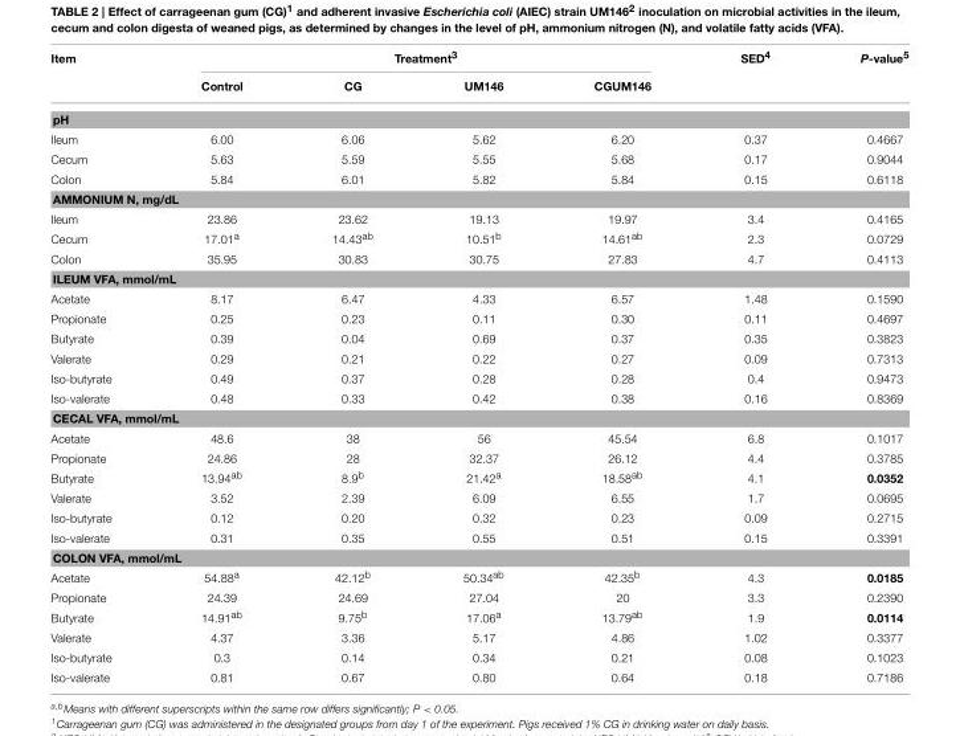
<table><thead><tr><td rowspan="2">Item</td><td colspan="4">Treatment<sup>3</sup></td><td rowspan="2">SED<sup>4</sup></td><td rowspan="2">P-value<sup>5</sup></td></tr><tr><td>Control</td><td>CG</td><td>UM146</td><td>CGUM146</td></tr></thead><tbody><tr><td colspan="7">pH</td></tr><tr><td>Ileum</td><td>6.00</td><td>6.06</td><td>5.62</td><td>6.20</td><td>0.37</td><td>0.4667</td></tr><tr><td>Cecum</td><td>5.63</td><td>5.59</td><td>5.55</td><td>5.68</td><td>0.17</td><td>0.9044</td></tr><tr><td>Colon</td><td>5.84</td><td>6.01</td><td>5.82</td><td>5.84</td><td>0.15</td><td>0.6118</td></tr><tr><td colspan="7">AMMONIUM N, mg/dL</td></tr><tr><td>Ileum</td><td>23.86</td><td>23.62</td><td>19.13</td><td>19.97</td><td>3.4</td><td>0.4165</td></tr><tr><td>Cecum</td><td>17.01<sup>a</sup></td><td>14.43<sup>ab</sup></td><td>10.51<sup>b</sup></td><td>14.61<sup>ab</sup></td><td>2.3</td><td>0.0729</td></tr><tr><td>Colon</td><td>35.95</td><td>30.83</td><td>30.75</td><td>27.83</td><td>4.7</td><td>0.4113</td></tr><tr><td colspan="7">ILEUM VFA, mmol/mL</td></tr><tr><td>Acetate</td><td>8.17</td><td>6.47</td><td>4.33</td><td>6.57</td><td>1.48</td><td>0.1590</td></tr><tr><td>Propionate</td><td>0.25</td><td>0.23</td><td>0.11</td><td>0.30</td><td>0.11</td><td>0.4697</td></tr><tr><td>Butyrate</td><td>0.39</td><td>0.04</td><td>0.69</td><td>0.37</td><td>0.35</td><td>0.3823</td></tr><tr><td>Valerate</td><td>0.29</td><td>0.21</td><td>0.22</td><td>0.27</td><td>0.09</td><td>0.7313</td></tr><tr><td>Iso-butyrate</td><td>0.49</td><td>0.37</td><td>0.28</td><td>0.28</td><td>0.4</td><td>0.9473</td></tr><tr><td>Iso-valerate</td><td>0.48</td><td>0.33</td><td>0.42</td><td>0.38</td><td>0.16</td><td>0.8369</td></tr><tr><td colspan="7">CECAL VFA, mmol/mL</td></tr><tr><td>Acetate</td><td>48.6</td><td>38</td><td>56</td><td>45.54</td><td>6.8</td><td>0.1017</td></tr><tr><td>Propionate</td><td>24.86</td><td>28</td><td>32.37</td><td>26.12</td><td>4.4</td><td>0.3785</td></tr><tr><td>Butyrate</td><td>13.94<sup>ab</sup></td><td>8.9<sup>b</sup></td><td>21.42<sup>a</sup></td><td>18.58<sup>ab</sup></td><td>4.1</td><td>0.0352</td></tr><tr><td>Valerate</td><td>3.52</td><td>2.39</td><td>6.09</td><td>6.55</td><td>1.7</td><td>0.0695</td></tr><tr><td>Iso-butyrate</td><td>0.12</td><td>0.20</td><td>0.32</td><td>0.23</td><td>0.09</td><td>0.2715</td></tr><tr><td>Iso-valerate</td><td>0.31</td><td>0.35</td><td>0.55</td><td>0.51</td><td>0.15</td><td>0.3391</td></tr><tr><td colspan="7">COLON VFA, mmol/mL</td></tr><tr><td>Acetate</td><td>54.88<sup>a</sup></td><td>42.12<sup>b</sup></td><td>50.34<sup>ab</sup></td><td>42.35<sup>b</sup></td><td>4.3</td><td>0.0185</td></tr><tr><td>Propionate</td><td>24.39</td><td>24.69</td><td>27.04</td><td>20</td><td>3.3</td><td>0.2390</td></tr><tr><td>Butyrate</td><td>14.91<sup>ab</sup></td><td>9.75<sup>b</sup></td><td>17.06<sup>a</sup></td><td>13.79<sup>ab</sup></td><td>1.9</td><td>0.0114</td></tr><tr><td>Valerate</td><td>4.37</td><td>3.36</td><td>5.17</td><td>4.86</td><td>1.02</td><td>0.3377</td></tr><tr><td>Iso-butyrate</td><td>0.3</td><td>0.14</td><td>0.34</td><td>0.21</td><td>0.08</td><td>0.1023</td></tr><tr><td>Iso-valerate</td><td>0.81</td><td>0.67</td><td>0.80</td><td>0.64</td><td>0.18</td><td>0.7186</td></tr></tbody></table>